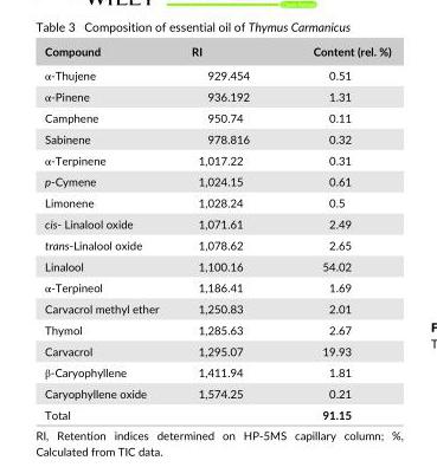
<table><thead><tr><td>Compound</td><td>RI</td><td>Content (rel. %)</td></tr></thead><tbody><tr><td>α- Thujene</td><td>929.454</td><td>0.51</td></tr><tr><td>α- Pinene</td><td>936.192</td><td>1.31</td></tr><tr><td>Camphene</td><td>950.74</td><td>0.11</td></tr><tr><td>Sabinene</td><td>978.816</td><td>0.32</td></tr><tr><td>α- Terpinene</td><td>1,017.22</td><td>0.31</td></tr><tr><td>p- Cymene</td><td>1,024.15</td><td>0.61</td></tr><tr><td>Limonene</td><td>1,028.24</td><td>0.5</td></tr><tr><td>cis- Linalool oxide</td><td>1,071.61</td><td>2.49</td></tr><tr><td>trans- Linalool oxide</td><td>1,078.62</td><td>2.65</td></tr><tr><td>Linalool</td><td>1,100.16</td><td>54.02</td></tr><tr><td>α- Terpineol</td><td>1,186.41</td><td>1.69</td></tr><tr><td>Carvacrol methyl ether</td><td>1,250.83</td><td>2.01</td></tr><tr><td>Thymol</td><td>1,285.63</td><td>2.67</td></tr><tr><td>Carvacrol</td><td>1,295.07</td><td>19.93</td></tr><tr><td>β- Caryophyllene</td><td>1,411.94</td><td>1.81</td></tr><tr><td>Caryophyllene oxide</td><td>1,574.25</td><td>0.21</td></tr><tr><td>Total</td><td></td><td>91.15</td></tr></tbody></table>